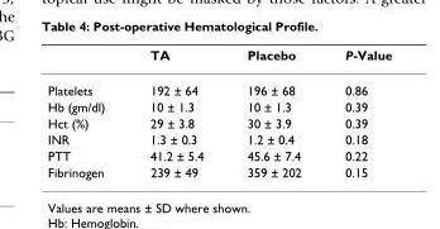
<table><thead><tr><td></td><td>TA</td><td>Placebo</td><td>P-Value</td></tr></thead><tbody><tr><td>Platelets</td><td>192 ± 64</td><td>196 ± 68</td><td>0.86</td></tr><tr><td>Hb (gm/dl)</td><td>10 ± 1.3</td><td>10 ± 1.3</td><td>0.39</td></tr><tr><td>Hct (%)</td><td>29 ± 3.8</td><td>30 ± 3.9</td><td>0.39</td></tr><tr><td>INR</td><td>1.3 ± 0.3</td><td>1.2 ± 0.4</td><td>0.18</td></tr><tr><td>PTT</td><td>41.2 ± 5.4</td><td>45.6 ± 7.4</td><td>0.22</td></tr><tr><td>Fibrinogen</td><td>239 ± 49</td><td>359 ± 202</td><td>0.15</td></tr></tbody></table>